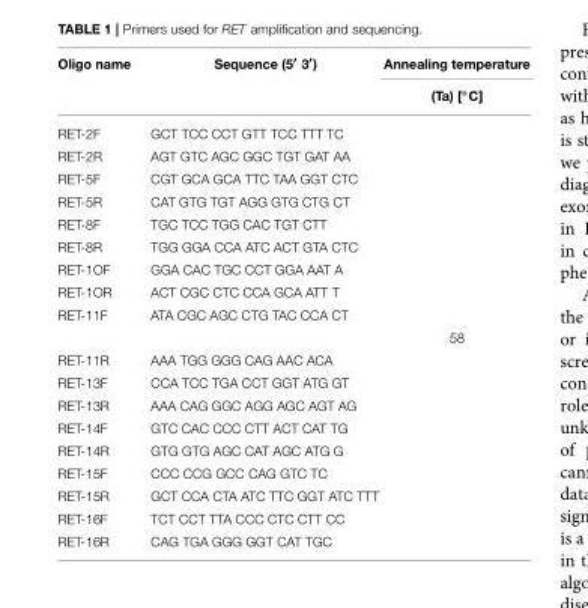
<table><thead><tr><td rowspan="2">Oligo name</td><td rowspan="2">Sequence (5′ 3′)</td><td rowspan="2">Annealing temperature (Ta) [◦C]</td></tr><tr></tr></thead><tbody><tr><td>RET-2F</td><td>GCT TCC CCT GTT TCC TTT TC</td><td></td></tr><tr><td>RET-2R</td><td>AGT GTC AGC GGC TGT GAT AA</td><td></td></tr><tr><td>RET-5F</td><td>CGT GCA GCA TTC TAA GGT CTC</td><td></td></tr><tr><td>RET-5R</td><td>CAT GTG TGT AGG GTG CTG CT</td><td></td></tr><tr><td>RET-8F</td><td>TGC TCC TGG CAC TGT CTT</td><td></td></tr><tr><td>RET-8R</td><td>TGG GGA CCA ATC ACT GTA CTC</td><td></td></tr><tr><td>RET-1OF</td><td>GGA CAC TGC CCT GGA AAT A</td><td></td></tr><tr><td>RET-1OR</td><td>ACT CGC CTC CCA GCA ATT T</td><td></td></tr><tr><td rowspan="2">RET-11F</td><td>ATA CGC AGC CTG TAC CCA CT</td><td></td></tr><tr><td></td><td>58</td></tr><tr><td>RET-11R</td><td>AAA TGG GGG CAG AAC ACA</td><td></td></tr><tr><td>RET-13F</td><td>CCA TCC TGA CCT GGT ATG GT</td><td></td></tr><tr><td>RET-13R</td><td>AAA CAG GGC AGG AGC AGT AG</td><td></td></tr><tr><td>RET-14F</td><td>GTC CAC CCC CTT ACT CAT TG</td><td></td></tr><tr><td>RET-14R</td><td>GTG GTG AGC CAT AGC ATG G</td><td></td></tr><tr><td>RET-15F</td><td>CCC CCG GCC CAG GTC TC</td><td></td></tr><tr><td>RET-15R</td><td>GCT CCA CTA ATC TTC GGT ATC TTT</td><td></td></tr><tr><td>RET-16F</td><td>TCT CCT TTA CCC CTC CTT CC</td><td></td></tr><tr><td>RET-16R</td><td>CAG TGA GGG GGT CAT TGC</td><td></td></tr></tbody></table>